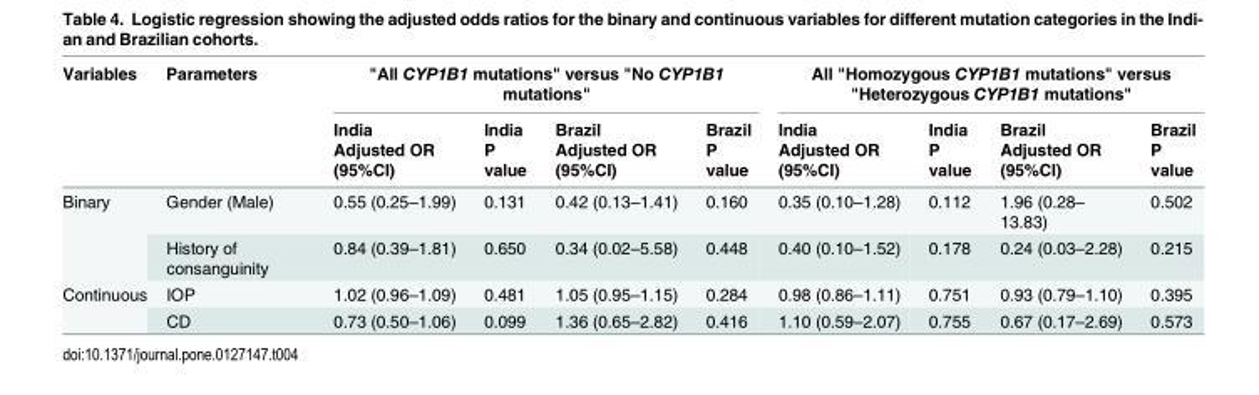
<table><thead><tr><td rowspan="3">Variables</td><td rowspan="3">Parameters</td><td colspan="4">&quot;All CYP1B1 mutations&quot; versus &quot;No CYP1B1 mutations&quot;</td><td colspan="4">All &quot;Homozygous CYP1B1 mutations&quot; versus &quot;Heterozygous CYP1B1 mutations&quot;</td></tr><tr><td rowspan="2">India Adjusted OR (95%CI)</td><td rowspan="2">India P value</td><td rowspan="2">Brazil Adjusted OR (95%CI)</td><td rowspan="2">Brazil P value</td><td rowspan="2">India Adjusted OR (95%CI)</td><td rowspan="2">India P value</td><td rowspan="2">Brazil Adjusted OR (95%CI)</td><td rowspan="2">Brazil P value</td></tr><tr></tr></thead><tbody><tr><td rowspan="2">Binary</td><td>Gender (Male)</td><td>0.55 (0.25–1.99)</td><td>0.131</td><td>0.42 (0.13–1.41)</td><td>0.160</td><td>0.35 (0.10–1.28)</td><td>0.112</td><td>1.96 (0.28– 13.83)</td><td>0.502</td></tr><tr><td>History of consanguinity</td><td>0.84 (0.39–1.81)</td><td>0.650</td><td>0.34 (0.02–5.58)</td><td>0.448</td><td>0.40 (0.10–1.52)</td><td>0.178</td><td>0.24 (0.03–2.28)</td><td>0.215</td></tr><tr><td rowspan="2">Continuous</td><td>IOP</td><td>1.02 (0.96–1.09)</td><td>0.481</td><td>1.05 (0.95–1.15)</td><td>0.284</td><td>0.98 (0.86–1.11)</td><td>0.751</td><td>0.93 (0.79–1.10)</td><td>0.395</td></tr><tr><td>CD</td><td>0.73 (0.50–1.06)</td><td>0.099</td><td>1.36 (0.65–2.82)</td><td>0.416</td><td>1.10 (0.59–2.07)</td><td>0.755</td><td>0.67 (0.17–2.69)</td><td>0.573</td></tr></tbody></table>